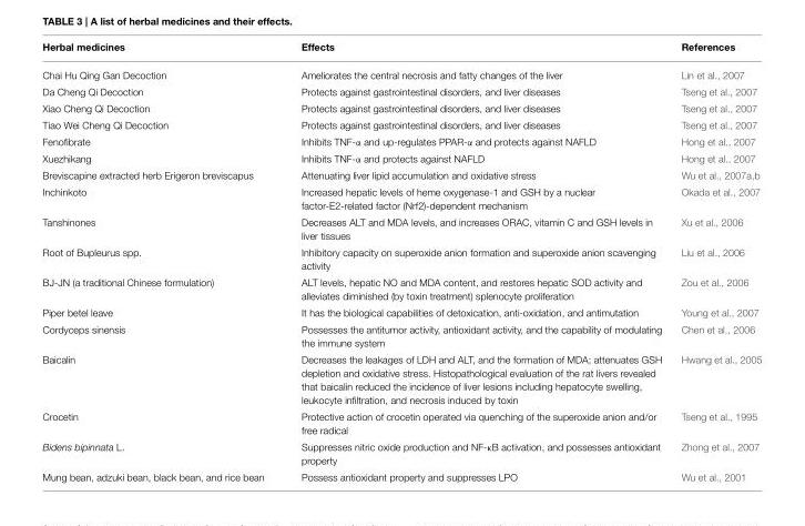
<table><thead><tr><td>Herbal medicines</td><td>Effects</td><td>References</td></tr></thead><tbody><tr><td>Chai Hu Qing Gan Decoction</td><td>Ameliorates the central necrosis and fatty changes of the liver</td><td>Lin et al., 2007</td></tr><tr><td>Da Cheng Qi Decoction</td><td>Protects against gastrointestinal disorders, and liver diseases</td><td>Tseng et al., 2007</td></tr><tr><td>Xiao Cheng Qi Decoction</td><td>Protects against gastrointestinal disorders, and liver diseases</td><td>Tseng et al., 2007</td></tr><tr><td>Tiao Wei Cheng Qi Decoction</td><td>Protects against gastrointestinal disorders, and liver diseases</td><td>Tseng et al., 2007</td></tr><tr><td>Fenofibrate</td><td>Inhibits TNF-α and up-regulates PPAR-α and protects against NAFLD</td><td>Hong et al., 2007</td></tr><tr><td>Xuezhikang</td><td>Inhibits TNF-α and protects against NAFLD</td><td>Hong et al., 2007</td></tr><tr><td>Breviscapine extracted herb Erigeron breviscapus</td><td>Attenuating liver lipid accumulation and oxidative stress</td><td>Wu et al., 2007a,b</td></tr><tr><td>Inchinkoto</td><td>Increased hepatic levels of heme oxygenase-1 and GSH by a nuclear factor-E2-related factor (Nrf2)-dependent mechanism</td><td>Okada et al., 2007</td></tr><tr><td>Tanshinones</td><td>Decreases ALT and MDA levels, and increases ORAC, vitamin C and GSH levels in liver tissues</td><td>Xu et al., 2006</td></tr><tr><td>Root of Bupleurus spp.</td><td>Inhibitory capacity on superoxide anion formation and superoxide anion scavenging activity</td><td>Liu et al., 2006</td></tr><tr><td>BJ-JN (a traditional Chinese formulation)</td><td>ALT levels, hepatic NO and MDA content, and restores hepatic SOD activity and alleviates diminished (by toxin treatment) splenocyte proliferation</td><td>Zou et al., 2006</td></tr><tr><td>Piper betel leave</td><td>It has the biological capabilities of detoxication, anti-oxidation, and antimutation</td><td>Young et al., 2007</td></tr><tr><td>Cordyceps sinensis</td><td>Possesses the antitumor activity, antioxidant activity, and the capability of modulating the immune system</td><td>Chen et al., 2006</td></tr><tr><td>Baicalin</td><td>Decreases the leakages of LDH and ALT, and the formation of MDA; attenuates GSH depletion and oxidative stress. Histopathological evaluation of the rat livers revealed that baicalin reduced the incidence of liver lesions including hepatocyte swelling, leukocyte infiltration, and necrosis induced by toxin</td><td>Hwang et al., 2005</td></tr><tr><td>Crocetin</td><td>Protective action of crocetin operated via quenching of the superoxide anion and/or free radical</td><td>Tseng et al., 1995</td></tr><tr><td>Bidens bipinnata L.</td><td>Suppresses nitric oxide production and NF-κB activation, and possesses antioxidant property</td><td>Zhong et al., 2007</td></tr><tr><td>Mung bean, adzuki bean, black bean, and rice bean</td><td>Possess antioxidant property and suppresses LPO</td><td>Wu et al., 2001</td></tr></tbody></table>